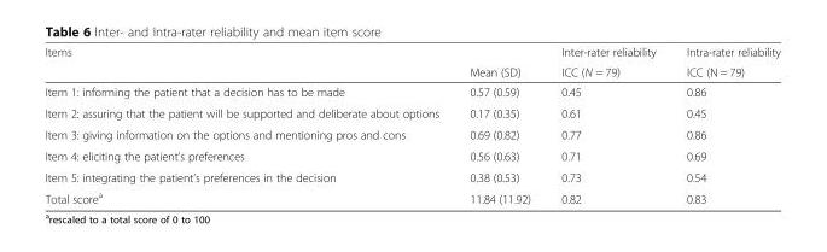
<table><thead><tr><td rowspan="2">Items</td><td rowspan="2">Mean (SD)</td><td rowspan="2">Inter-rater reliability ICC (N = 79)</td><td rowspan="2">Intra-rater reliability ICC (N = 79)</td></tr><tr></tr></thead><tbody><tr><td>Item 1: informing the patient that a decision has to be made</td><td>0.57 (0.59)</td><td>0.45</td><td>0.86</td></tr><tr><td>Item 2: assuring that the patient will be supported and deliberate about options</td><td>0.17 (0.35)</td><td>0.61</td><td>0.45</td></tr><tr><td>Item 3: giving information on the options and mentioning pros and cons</td><td>0.69 (0.82)</td><td>0.77</td><td>0.86</td></tr><tr><td>Item 4: eliciting the patient’s preferences</td><td>0.56 (0.63)</td><td>0.71</td><td>0.69</td></tr><tr><td>Item 5: integrating the patient’s preferences in the decision</td><td>0.38 (0.53)</td><td>0.73</td><td>0.54</td></tr><tr><td>Total score<sup>a</sup></td><td>11.84 (11.92)</td><td>0.82</td><td>0.83</td></tr></tbody></table>